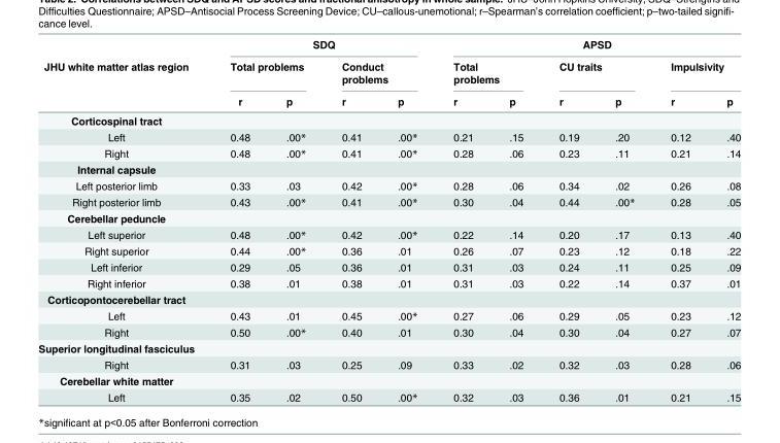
<table><thead><tr><td rowspan="3">JHU white matter atlas region</td><td colspan="4">SDQ</td><td colspan="6">APSD</td></tr><tr><td colspan="2">Total problems</td><td colspan="2">Conduct problems</td><td colspan="2">Total problems</td><td colspan="2">CU traits</td><td colspan="2">Impulsivity</td></tr><tr><td>r</td><td>p</td><td>r</td><td>p</td><td>r</td><td>p</td><td>r</td><td>p</td><td>r</td><td>p</td></tr></thead><tbody><tr><td colspan="11">Corticospinal tract</td></tr><tr><td>Left</td><td>0.48</td><td>.00*</td><td>0.41</td><td>.00*</td><td>0.21</td><td>.15</td><td>0.19</td><td>.20</td><td>0.12</td><td>.40</td></tr><tr><td>Right</td><td>0.48</td><td>.00*</td><td>0.41</td><td>.00*</td><td>0.28</td><td>.06</td><td>0.23</td><td>.11</td><td>0.21</td><td>.14</td></tr><tr><td colspan="11">Internal capsule</td></tr><tr><td>Left posterior limb</td><td>0.33</td><td>.03</td><td>0.42</td><td>.00*</td><td>0.28</td><td>.06</td><td>0.34</td><td>.02</td><td>0.26</td><td>.08</td></tr><tr><td>Right posterior limb</td><td>0.43</td><td>.00*</td><td>0.41</td><td>.00*</td><td>0.30</td><td>.04</td><td>0.44</td><td>.00*</td><td>0.28</td><td>.05</td></tr><tr><td colspan="11">Cerebellar peduncle</td></tr><tr><td>Left superior</td><td>0.48</td><td>.00*</td><td>0.42</td><td>.00*</td><td>0.22</td><td>.14</td><td>0.20</td><td>.17</td><td>0.13</td><td>.40</td></tr><tr><td>Right superior</td><td>0.44</td><td>.00*</td><td>0.36</td><td>.01</td><td>0.26</td><td>.07</td><td>0.23</td><td>.12</td><td>0.18</td><td>.22</td></tr><tr><td>Left inferior</td><td>0.29</td><td>.05</td><td>0.36</td><td>.01</td><td>0.31</td><td>.03</td><td>0.24</td><td>.11</td><td>0.25</td><td>.09</td></tr><tr><td>Right inferior</td><td>0.38</td><td>.01</td><td>0.38</td><td>.01</td><td>0.31</td><td>.03</td><td>0.22</td><td>.14</td><td>0.37</td><td>.01</td></tr><tr><td colspan="11">Corticopontocerebellar tract</td></tr><tr><td>Left</td><td>0.43</td><td>.01</td><td>0.45</td><td>.00*</td><td>0.27</td><td>.06</td><td>0.29</td><td>.05</td><td>0.23</td><td>.12</td></tr><tr><td>Right</td><td>0.50</td><td>.00*</td><td>0.40</td><td>.01</td><td>0.30</td><td>.04</td><td>0.30</td><td>.04</td><td>0.27</td><td>.07</td></tr><tr><td colspan="11">Superior longitudinal fasciculus</td></tr><tr><td>Right</td><td>0.31</td><td>.03</td><td>0.25</td><td>.09</td><td>0.33</td><td>.02</td><td>0.32</td><td>.03</td><td>0.28</td><td>.06</td></tr><tr><td colspan="11">Cerebellar white matter</td></tr><tr><td>Left</td><td>0.35</td><td>.02</td><td>0.50</td><td>.00*</td><td>0.32</td><td>.03</td><td>0.36</td><td>.01</td><td>0.21</td><td>.15</td></tr></tbody></table>